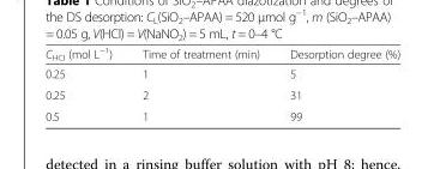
<table><thead><tr><td>С<sub>HCl</sub> (mol L<sup>−1</sup>)</td><td>Time of treatment (min)</td><td>Desorption degree (%)</td></tr></thead><tbody><tr><td>0.25</td><td>1</td><td>5</td></tr><tr><td>0.25</td><td>2</td><td>31</td></tr><tr><td>0.5</td><td>1</td><td>99</td></tr></tbody></table>